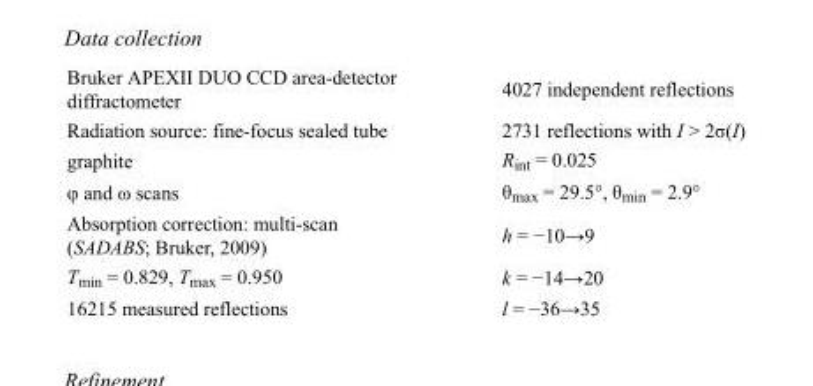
<table><tbody><tr><td>Bruker APEXII DUO CCD area-detector diffractometer</td><td>4027 independent reflections</td></tr><tr><td>Radiation source: fine-focus sealed tube</td><td>2731 reflections with I &gt; 2σ(I)</td></tr><tr><td>graphite</td><td>R<sub>int</sub> = 0.025</td></tr><tr><td>φ and ω scans</td><td>θ<sub>max</sub> = 29.5°, θ<sub>min</sub> = 2.9°</td></tr><tr><td>Absorption correction: multi-scan (SADABS; Bruker, 2009)</td><td>h = −10→9</td></tr><tr><td>T<sub>min</sub> = 0.829, T<sub>max</sub> = 0.950</td><td>k = −14→20</td></tr><tr><td>16215 measured reflections</td><td>l = −36→35</td></tr></tbody></table>